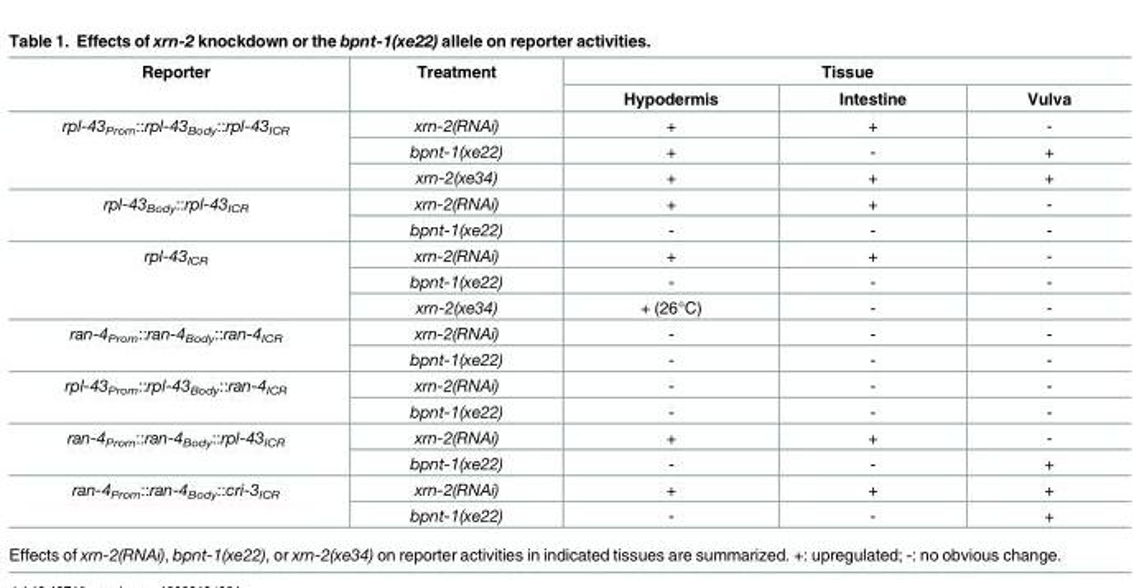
<table><thead><tr><td rowspan="2">Reporter</td><td rowspan="2">Treatment</td><td colspan="3">Tissue</td></tr><tr><td>Hypodermis</td><td>Intestine</td><td>Vulva</td></tr></thead><tbody><tr><td rowspan="3">rpl-43<sub>Prom</sub>::rpl-43<sub>Body</sub>::rpl-43<sub>ICR</sub></td><td>xrn-2(RNAi)</td><td>+</td><td>+</td><td>-</td></tr><tr><td>bpnt-1(xe22)</td><td>+</td><td>-</td><td>+</td></tr><tr><td>xrn-2(xe34)</td><td>+</td><td>+</td><td>+</td></tr><tr><td rowspan="2">rpl-43<sub>Body</sub>::rpl-43<sub>ICR</sub></td><td>xrn-2(RNAi)</td><td>+</td><td>+</td><td>-</td></tr><tr><td>bpnt-1(xe22)</td><td>-</td><td>-</td><td>-</td></tr><tr><td rowspan="3">rpl-43<sub>ICR</sub></td><td>xrn-2(RNAi)</td><td>+</td><td>+</td><td>-</td></tr><tr><td>bpnt-1(xe22)</td><td>-</td><td>-</td><td>-</td></tr><tr><td>xrn-2(xe34)</td><td>+ (26°C)</td><td>-</td><td>-</td></tr><tr><td rowspan="2">ran-4<sub>Prom</sub>::ran-4<sub>Body</sub>::ran-4<sub>ICR</sub></td><td>xrn-2(RNAi)</td><td>-</td><td>-</td><td>-</td></tr><tr><td>bpnt-1(xe22)</td><td>-</td><td>-</td><td>-</td></tr><tr><td rowspan="2">rpl-43<sub>Prom</sub>::rpl-43<sub>Body</sub>::ran-4<sub>ICR</sub></td><td>xrn-2(RNAi)</td><td>-</td><td>-</td><td>-</td></tr><tr><td>bpnt-1(xe22)</td><td>-</td><td>-</td><td>-</td></tr><tr><td rowspan="2">ran-4<sub>Prom</sub>::ran-4<sub>Body</sub>::rpl-43<sub>ICR</sub></td><td>xrn-2(RNAi)</td><td>+</td><td>+</td><td>-</td></tr><tr><td>bpnt-1(xe22)</td><td>-</td><td>-</td><td>+</td></tr><tr><td rowspan="2">ran-4<sub>Prom</sub>::ran-4<sub>Body</sub>::cri-3<sub>ICR</sub></td><td>xrn-2(RNAi)</td><td>+</td><td>+</td><td>+</td></tr><tr><td>bpnt-1(xe22)</td><td>-</td><td>-</td><td>+</td></tr></tbody></table>